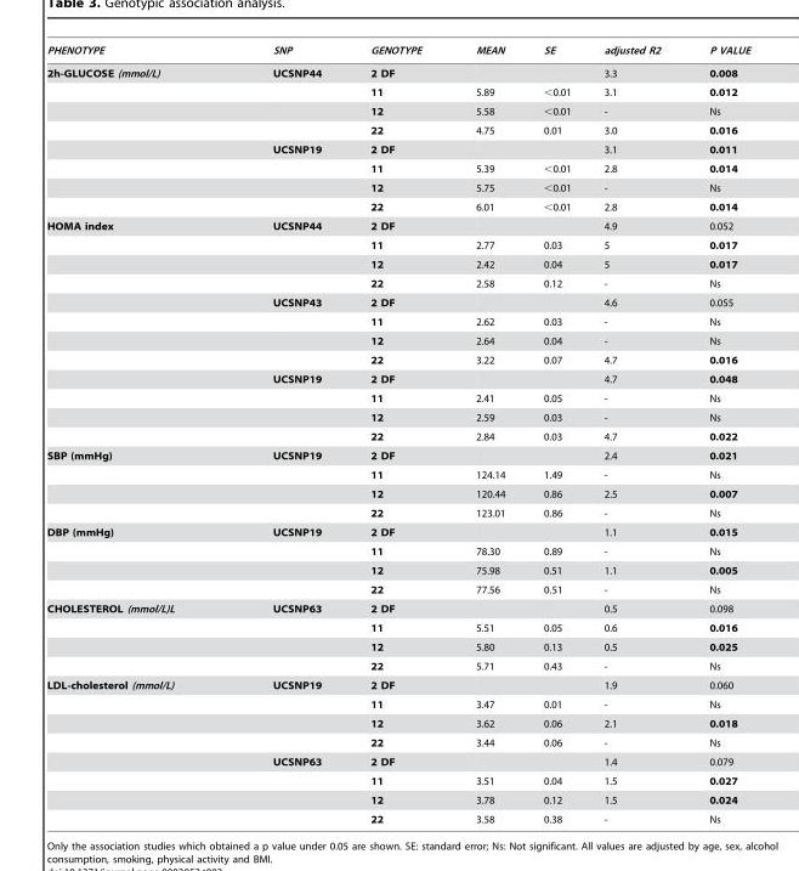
<table><thead><tr><td>PHENOTYPE</td><td>SNP</td><td>GENOTYPE</td><td>MEAN</td><td>SE</td><td>adjusted R2</td><td>P VALUE</td></tr></thead><tbody><tr><td rowspan="8">2h-GLUCOSE (mmol/L)</td><td>UCSNP44</td><td>2 DF</td><td></td><td></td><td>3.3</td><td>0.008</td></tr><tr><td></td><td>11</td><td>5.89</td><td>&lt;0.01</td><td>3.1</td><td>0.012</td></tr><tr><td></td><td>12</td><td>5.58</td><td>&lt;0.01</td><td>-</td><td>Ns</td></tr><tr><td></td><td>22</td><td>4.75</td><td>0.01</td><td>3.0</td><td>0.016</td></tr><tr><td>UCSNP19</td><td>2 DF</td><td></td><td></td><td>3.1</td><td>0.011</td></tr><tr><td></td><td>11</td><td>5.39</td><td>&lt;0.01</td><td>2.8</td><td>0.014</td></tr><tr><td></td><td>12</td><td>5.75</td><td>&lt;0.01</td><td>-</td><td>Ns</td></tr><tr><td></td><td>22</td><td>6.01</td><td>&lt;0.01</td><td>2.8</td><td>0.014</td></tr><tr><td rowspan="12">HOMA index</td><td>UCSNP44</td><td>2 DF</td><td></td><td></td><td>4.9</td><td>0.052</td></tr><tr><td></td><td>11</td><td>2.77</td><td>0.03</td><td>5</td><td>0.017</td></tr><tr><td></td><td>12</td><td>2.42</td><td>0.04</td><td>5</td><td>0.017</td></tr><tr><td></td><td>22</td><td>2.58</td><td>0.12</td><td>-</td><td>Ns</td></tr><tr><td>UCSNP43</td><td>2 DF</td><td></td><td></td><td>4.6</td><td>0.055</td></tr><tr><td></td><td>11</td><td>2.62</td><td>0.03</td><td>-</td><td>Ns</td></tr><tr><td></td><td>12</td><td>2.64</td><td>0.04</td><td>-</td><td>Ns</td></tr><tr><td></td><td>22</td><td>3.22</td><td>0.07</td><td>4.7</td><td>0.016</td></tr><tr><td>UCSNP19</td><td>2 DF</td><td></td><td></td><td>4.7</td><td>0.048</td></tr><tr><td></td><td>11</td><td>2.41</td><td>0.05</td><td>-</td><td>Ns</td></tr><tr><td></td><td>12</td><td>2.59</td><td>0.03</td><td>-</td><td>Ns</td></tr><tr><td></td><td>22</td><td>2.84</td><td>0.03</td><td>4.7</td><td>0.022</td></tr><tr><td rowspan="4">SBP (mmHg)</td><td>UCSNP19</td><td>2 DF</td><td></td><td></td><td>2.4</td><td>0.021</td></tr><tr><td></td><td>11</td><td>124.14</td><td>1.49</td><td>-</td><td>Ns</td></tr><tr><td></td><td>12</td><td>120.44</td><td>0.86</td><td>2.5</td><td>0.007</td></tr><tr><td></td><td>22</td><td>123.01</td><td>0.86</td><td>-</td><td>Ns</td></tr><tr><td rowspan="4">DBP (mmHg)</td><td>UCSNP19</td><td>2 DF</td><td></td><td></td><td>1.1</td><td>0.015</td></tr><tr><td></td><td>11</td><td>78.30</td><td>0.89</td><td>-</td><td>Ns</td></tr><tr><td></td><td>12</td><td>75.98</td><td>0.51</td><td>1.1</td><td>0.005</td></tr><tr><td></td><td>22</td><td>77.56</td><td>0.51</td><td>-</td><td>Ns</td></tr><tr><td rowspan="4">CHOLESTEROL (mmol/L)L</td><td>UCSNP63</td><td>2 DF</td><td></td><td></td><td>0.5</td><td>0.098</td></tr><tr><td></td><td>11</td><td>5.51</td><td>0.05</td><td>0.6</td><td>0.016</td></tr><tr><td></td><td>12</td><td>5.80</td><td>0.13</td><td>0.5</td><td>0.025</td></tr><tr><td></td><td>22</td><td>5.71</td><td>0.43</td><td>-</td><td>Ns</td></tr><tr><td rowspan="8">LDL-cholesterol (mmol/L)</td><td>UCSNP19</td><td>2 DF</td><td></td><td></td><td>1.9</td><td>0.060</td></tr><tr><td></td><td>11</td><td>3.47</td><td>0.01</td><td>-</td><td>Ns</td></tr><tr><td></td><td>12</td><td>3.62</td><td>0.06</td><td>2.1</td><td>0.018</td></tr><tr><td></td><td>22</td><td>3.44</td><td>0.06</td><td>-</td><td>Ns</td></tr><tr><td>UCSNP63</td><td>2 DF</td><td></td><td></td><td>1.4</td><td>0.079</td></tr><tr><td></td><td>11</td><td>3.51</td><td>0.04</td><td>1.5</td><td>0.027</td></tr><tr><td></td><td>12</td><td>3.78</td><td>0.12</td><td>1.5</td><td>0.024</td></tr><tr><td></td><td>22</td><td>3.58</td><td>0.38</td><td>-</td><td>Ns</td></tr></tbody></table>